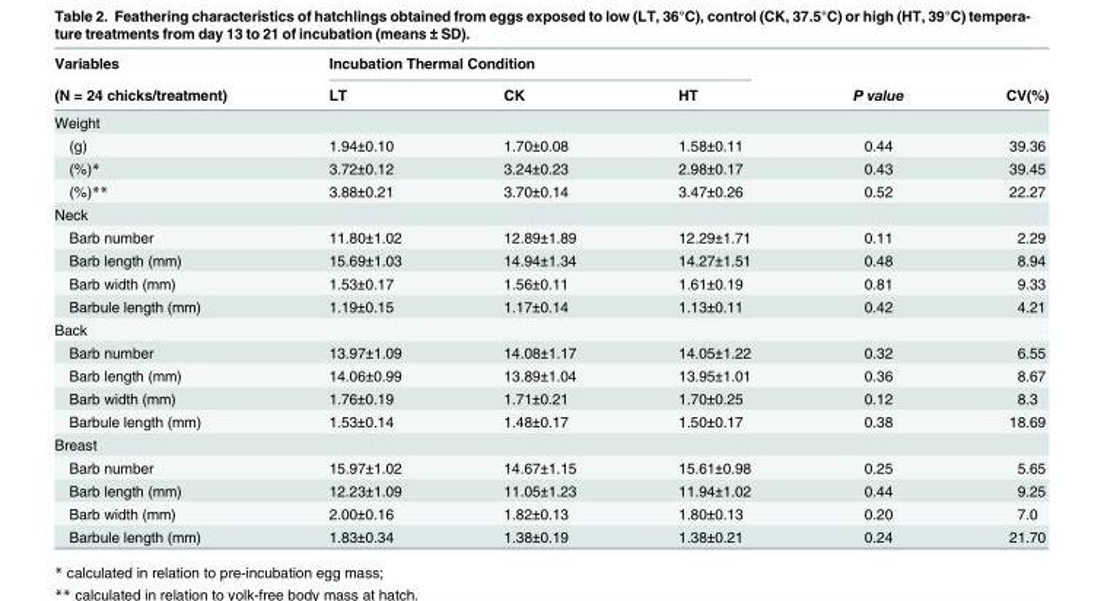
<table><thead><tr><td rowspan="2">Variables (N = 24 chicks/treatment)</td><td colspan="3">Incubation Thermal Condition</td><td rowspan="2">P value</td><td rowspan="2">CV(%)</td></tr><tr><td>LT</td><td>CK</td><td>HT</td></tr></thead><tbody><tr><td colspan="6">Weight</td></tr><tr><td>(g)</td><td>1.94±0.10</td><td>1.70±0.08</td><td>1.58±0.11</td><td>0.44</td><td>39.36</td></tr><tr><td>(%)*</td><td>3.72±0.12</td><td>3.24±0.23</td><td>2.98±0.17</td><td>0.43</td><td>39.45</td></tr><tr><td>(%)**</td><td>3.88±0.21</td><td>3.70±0.14</td><td>3.47±0.26</td><td>0.52</td><td>22.27</td></tr><tr><td colspan="6">Neck</td></tr><tr><td>Barb number</td><td>11.80±1.02</td><td>12.89±1.89</td><td>12.29±1.71</td><td>0.11</td><td>2.29</td></tr><tr><td>Barb length (mm)</td><td>15.69±1.03</td><td>14.94±1.34</td><td>14.27±1.51</td><td>0.48</td><td>8.94</td></tr><tr><td>Barb width (mm)</td><td>1.53±0.17</td><td>1.56±0.11</td><td>1.61±0.19</td><td>0.81</td><td>9.33</td></tr><tr><td>Barbule length (mm)</td><td>1.19±0.15</td><td>1.17±0.14</td><td>1.13±0.11</td><td>0.42</td><td>4.21</td></tr><tr><td colspan="6">Back</td></tr><tr><td>Barb number</td><td>13.97±1.09</td><td>14.08±1.17</td><td>14.05±1.22</td><td>0.32</td><td>6.55</td></tr><tr><td>Barb length (mm)</td><td>14.06±0.99</td><td>13.89±1.04</td><td>13.95±1.01</td><td>0.36</td><td>8.67</td></tr><tr><td>Barb width (mm)</td><td>1.76±0.19</td><td>1.71±0.21</td><td>1.70±0.25</td><td>0.12</td><td>8.3</td></tr><tr><td>Barbule length (mm)</td><td>1.53±0.14</td><td>1.48±0.17</td><td>1.50±0.17</td><td>0.38</td><td>18.69</td></tr><tr><td colspan="6">Breast</td></tr><tr><td>Barb number</td><td>15.97±1.02</td><td>14.67±1.15</td><td>15.61±0.98</td><td>0.25</td><td>5.65</td></tr><tr><td>Barb length (mm)</td><td>12.23±1.09</td><td>11.05±1.23</td><td>11.94±1.02</td><td>0.44</td><td>9.25</td></tr><tr><td>Barb width (mm)</td><td>2.00±0.16</td><td>1.82±0.13</td><td>1.80±0.13</td><td>0.20</td><td>7.0</td></tr><tr><td>Barbule length (mm)</td><td>1.83±0.34</td><td>1.38±0.19</td><td>1.38±0.21</td><td>0.24</td><td>21.70</td></tr></tbody></table>